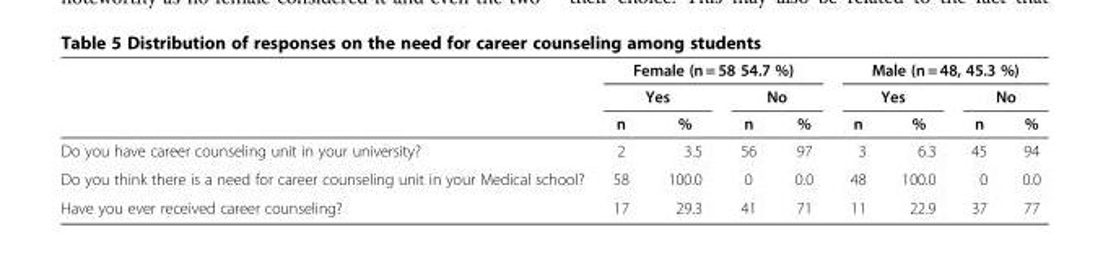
<table><thead><tr><td rowspan="3"></td><td colspan="4">Female (n = 58 54.7 %)</td><td colspan="4">Male (n = 48, 45.3 %)</td></tr><tr><td colspan="2">Yes</td><td colspan="2">No</td><td colspan="2">Yes</td><td colspan="2">No</td></tr><tr><td>n</td><td>%</td><td>n</td><td>%</td><td>n</td><td>%</td><td>n</td><td>%</td></tr></thead><tbody><tr><td>Do you have career counseling unit in your university?</td><td>2</td><td>3.5</td><td>56</td><td>97</td><td>3</td><td>6.3</td><td>45</td><td>94</td></tr><tr><td>Do you think there is a need for career counseling unit in your Medical school?</td><td>58</td><td>100.0</td><td>0</td><td>0.0</td><td>48</td><td>100.0</td><td>0</td><td>0.0</td></tr><tr><td>Have you ever received career counseling?</td><td>17</td><td>29.3</td><td>41</td><td>71</td><td>11</td><td>22.9</td><td>37</td><td>77</td></tr></tbody></table>